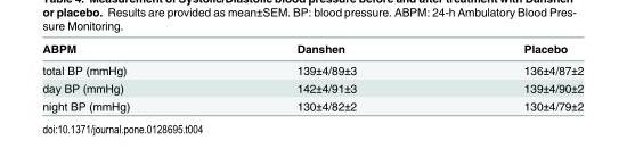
<table><thead><tr><td>ABPM</td><td>Danshen</td><td>Placebo</td></tr></thead><tbody><tr><td>total BP (mmHg)</td><td>139±4/89±3</td><td>136±4/87±2</td></tr><tr><td>day BP (mmHg)</td><td>142±4/91±3</td><td>139±4/90±2</td></tr><tr><td>night BP (mmHg)</td><td>130±4/82±2</td><td>130±4/79±2</td></tr></tbody></table>